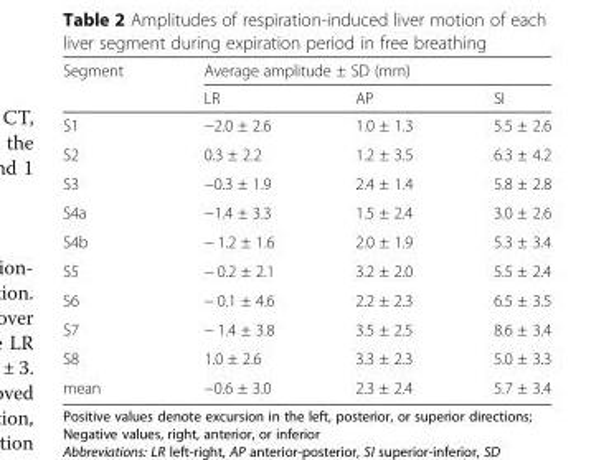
<table><thead><tr><td rowspan="2">Segment</td><td colspan="3">Average amplitude ± SD (mm)</td></tr><tr><td>LR</td><td>AP</td><td>SI</td></tr></thead><tbody><tr><td>S1</td><td>−2.0 ± 2.6</td><td>1.0 ± 1.3</td><td>5.5 ± 2.6</td></tr><tr><td>S2</td><td>0.3 ± 2.2</td><td>1.2 ± 3.5</td><td>6.3 ± 4.2</td></tr><tr><td>S3</td><td>−0.3 ± 1.9</td><td>2.4 ± 1.4</td><td>5.8 ± 2.8</td></tr><tr><td>S4a</td><td>−1.4 ± 3.3</td><td>1.5 ± 2.4</td><td>3.0 ± 2.6</td></tr><tr><td>S4b</td><td>− 1.2 ± 1.6</td><td>2.0 ± 1.9</td><td>5.3 ± 3.4</td></tr><tr><td>S5</td><td>− 0.2 ± 2.1</td><td>3.2 ± 2.0</td><td>5.5 ± 2.4</td></tr><tr><td>S6</td><td>− 0.1 ± 4.6</td><td>2.2 ± 2.3</td><td>6.5 ± 3.5</td></tr><tr><td>S7</td><td>− 1.4 ± 3.8</td><td>3.5 ± 2.5</td><td>8.6 ± 3.4</td></tr><tr><td>S8</td><td>1.0 ± 2.6</td><td>3.3 ± 2.3</td><td>5.0 ± 3.3</td></tr><tr><td>mean</td><td>−0.6 ± 3.0</td><td>2.3 ± 2.4</td><td>5.7 ± 3.4</td></tr></tbody></table>